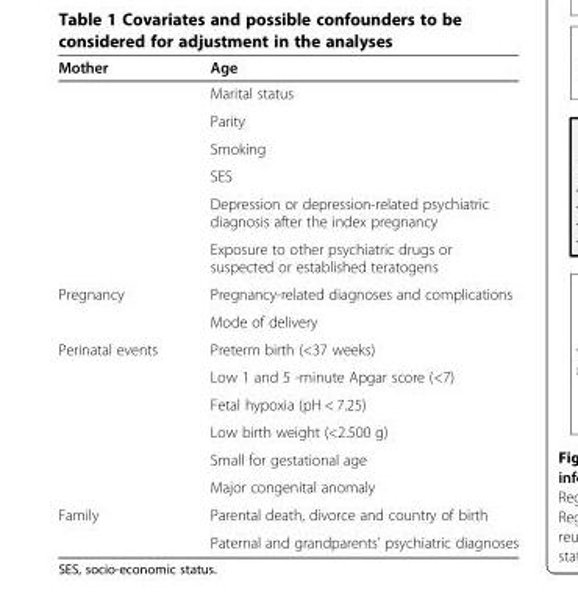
<table><thead><tr><td>Mother</td><td>Age</td></tr></thead><tbody><tr><td rowspan="6"></td><td>Marital status</td></tr><tr><td>Parity</td></tr><tr><td>Smoking</td></tr><tr><td>SES</td></tr><tr><td>Depression or depression-related psychiatric diagnosis after the index pregnancy</td></tr><tr><td>Exposure to other psychiatric drugs or suspected or established teratogens</td></tr><tr><td rowspan="2">Pregnancy</td><td>Pregnancy-related diagnoses and complications</td></tr><tr><td>Mode of delivery</td></tr><tr><td rowspan="6">Perinatal events</td><td>Preterm birth (&lt;37 weeks)</td></tr><tr><td>Low 1 and 5 -minute Apgar score (&lt;7)</td></tr><tr><td>Fetal hypoxia (pH &lt; 7.25)</td></tr><tr><td>Low birth weight (&lt;2.500 g)</td></tr><tr><td>Small for gestational age</td></tr><tr><td>Major congenital anomaly</td></tr><tr><td rowspan="2">Family</td><td>Parental death, divorce and country of birth</td></tr><tr><td>Paternal and grandparents’ psychiatric diagnoses</td></tr></tbody></table>